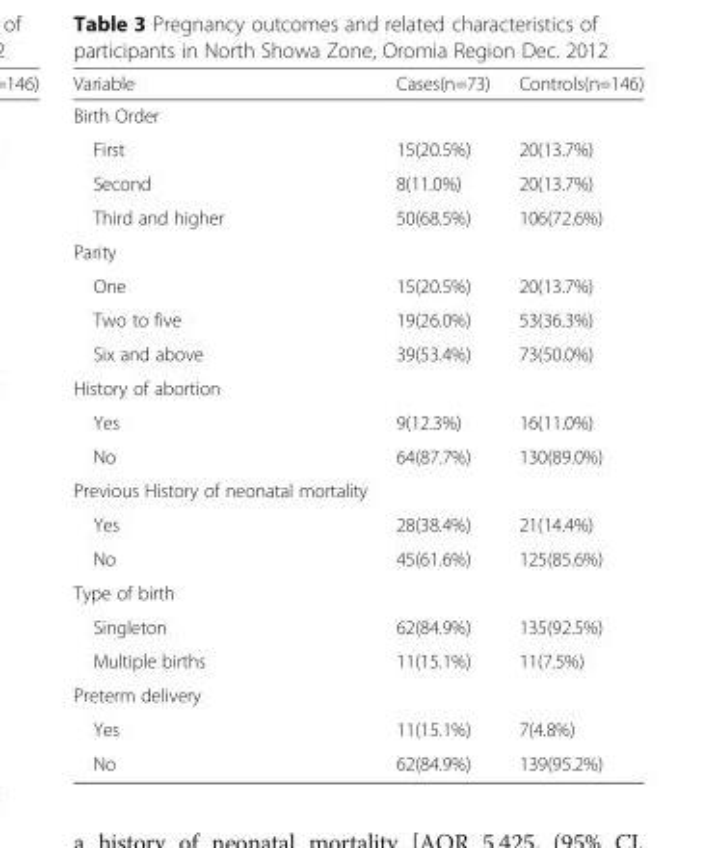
<table><thead><tr><td>Variable</td><td>Cases(n=73)</td><td>Controls(n=146)</td></tr></thead><tbody><tr><td colspan="3">Birth Order</td></tr><tr><td>First</td><td>15(20.5%)</td><td>20(13.7%)</td></tr><tr><td>Second</td><td>8(11.0%)</td><td>20(13.7%)</td></tr><tr><td>Third and higher</td><td>50(68.5%)</td><td>106(72.6%)</td></tr><tr><td colspan="3">Parity</td></tr><tr><td>One</td><td>15(20.5%)</td><td>20(13.7%)</td></tr><tr><td>Two to five</td><td>19(26.0%)</td><td>53(36.3%)</td></tr><tr><td>Six and above</td><td>39(53.4%)</td><td>73(50.0%)</td></tr><tr><td colspan="3">History of abortion</td></tr><tr><td>Yes</td><td>9(12.3%)</td><td>16(11.0%)</td></tr><tr><td>No</td><td>64(87.7%)</td><td>130(89.0%)</td></tr><tr><td colspan="3">Previous History of neonatal mortality</td></tr><tr><td>Yes</td><td>28(38.4%)</td><td>21(14.4%)</td></tr><tr><td>No</td><td>45(61.6%)</td><td>125(85.6%)</td></tr><tr><td colspan="3">Type of birth</td></tr><tr><td>Singleton</td><td>62(84.9%)</td><td>135(92.5%)</td></tr><tr><td>Multiple births</td><td>11(15.1%)</td><td>11(7.5%)</td></tr><tr><td colspan="3">Preterm delivery</td></tr><tr><td>Yes</td><td>11(15.1%)</td><td>7(4.8%)</td></tr><tr><td>No</td><td>62(84.9%)</td><td>139(95.2%)</td></tr></tbody></table>